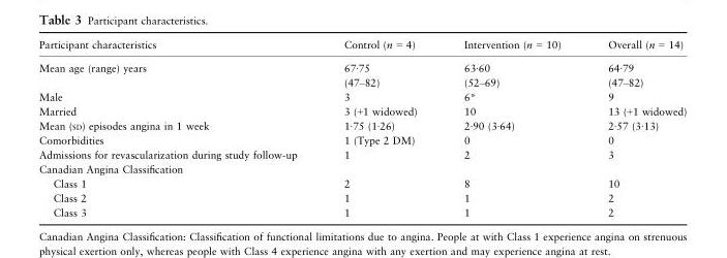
<table><thead><tr><td>Participant characteristics</td><td>Control (n = 4)</td><td>Intervention (n = 10)</td><td>Overall (n = 14)</td></tr></thead><tbody><tr><td rowspan="2">Mean age (range) years</td><td>67·75</td><td>63·60</td><td>64·79</td></tr><tr><td>(47–82)</td><td>(52–69)</td><td>(47–82)</td></tr><tr><td>Male</td><td>3</td><td>6*</td><td>9</td></tr><tr><td>Married</td><td>3 (+1 widowed)</td><td>10</td><td>13 (+1 widowed)</td></tr><tr><td>Mean (SD) episodes angina in 1 week</td><td>1·75 (1·26)</td><td>2·90 (3·64)</td><td>2·57 (3·13)</td></tr><tr><td>Comorbidities</td><td>1 (Type 2 DM)</td><td>0</td><td>0</td></tr><tr><td>Admissions for revascularization during study follow-up</td><td>1</td><td>2</td><td>3</td></tr><tr><td colspan="4">Canadian Angina Classification</td></tr><tr><td>Class 1</td><td>2</td><td>8</td><td>10</td></tr><tr><td>Class 2</td><td>1</td><td>1</td><td>2</td></tr><tr><td>Class 3</td><td>1</td><td>1</td><td>2</td></tr></tbody></table>